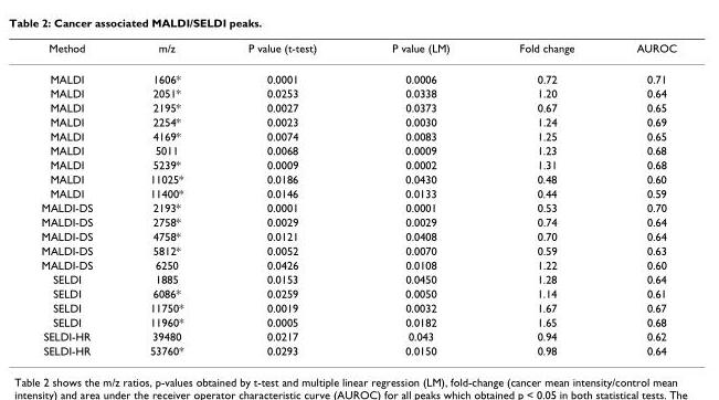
<table><thead><tr><td>Method</td><td>m/z</td><td>P value (t-test)</td><td>P value (LM)</td><td>Fold change</td><td>AUROC</td></tr></thead><tbody><tr><td>MALDI</td><td>1606*</td><td>0.0001</td><td>0.0006</td><td>0.72</td><td>0.71</td></tr><tr><td>MALDI</td><td>2051*</td><td>0.0253</td><td>0.0338</td><td>1.20</td><td>0.64</td></tr><tr><td>MALDI</td><td>2195*</td><td>0.0027</td><td>0.0373</td><td>0.67</td><td>0.65</td></tr><tr><td>MALDI</td><td>2254*</td><td>0.0023</td><td>0.0030</td><td>1.24</td><td>0.69</td></tr><tr><td>MALDI</td><td>4169*</td><td>0.0074</td><td>0.0083</td><td>1.25</td><td>0.65</td></tr><tr><td>MALDI</td><td>5011</td><td>0.0068</td><td>0.0009</td><td>1.23</td><td>0.68</td></tr><tr><td>MALDI</td><td>5239*</td><td>0.0009</td><td>0.0002</td><td>1.31</td><td>0.68</td></tr><tr><td>MALDI</td><td>11025*</td><td>0.0186</td><td>0.0430</td><td>0.48</td><td>0.60</td></tr><tr><td>MALDI</td><td>11400*</td><td>0.0146</td><td>0.0133</td><td>0.44</td><td>0.59</td></tr><tr><td>MALDI-DS</td><td>2193*</td><td>0.0001</td><td>0.0001</td><td>0.53</td><td>0.70</td></tr><tr><td>MALDI-DS</td><td>2758*</td><td>0.0029</td><td>0.0029</td><td>0.74</td><td>0.64</td></tr><tr><td>MALDI-DS</td><td>4758*</td><td>0.0121</td><td>0.0408</td><td>0.70</td><td>0.64</td></tr><tr><td>MALDI-DS</td><td>5812*</td><td>0.0052</td><td>0.0070</td><td>0.59</td><td>0.63</td></tr><tr><td>MALDI-DS</td><td>6250</td><td>0.0426</td><td>0.0108</td><td>1.22</td><td>0.60</td></tr><tr><td>SELDI</td><td>1885</td><td>0.0153</td><td>0.0450</td><td>1.28</td><td>0.64</td></tr><tr><td>SELDI</td><td>6086*</td><td>0.0259</td><td>0.0050</td><td>1.14</td><td>0.61</td></tr><tr><td>SELDI</td><td>11750*</td><td>0.0019</td><td>0.0032</td><td>1.67</td><td>0.67</td></tr><tr><td>SELDI</td><td>11960*</td><td>0.0005</td><td>0.0182</td><td>1.65</td><td>0.68</td></tr><tr><td>SELDI-HR</td><td>39480</td><td>0.0217</td><td>0.043</td><td>0.94</td><td>0.62</td></tr><tr><td>SELDI-HR</td><td>53760*</td><td>0.0293</td><td>0.0150</td><td>0.98</td><td>0.64</td></tr></tbody></table>